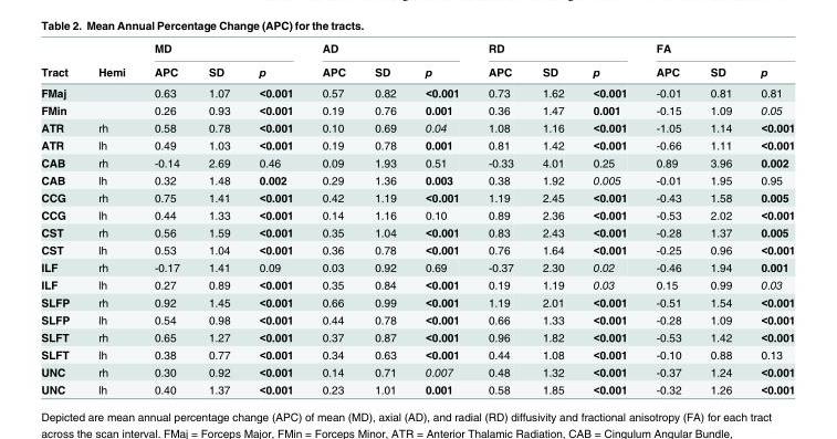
<table><thead><tr><td rowspan="2">Tract</td><td rowspan="2">Hemi</td><td colspan="3">MD</td><td colspan="3">AD</td><td colspan="3">RD</td><td colspan="3">FA</td></tr><tr><td>APC</td><td>SD</td><td>p</td><td>APC</td><td>SD</td><td>p</td><td>APC</td><td>SD</td><td>p</td><td>APC</td><td>SD</td><td>p</td></tr></thead><tbody><tr><td>FMaj</td><td></td><td>0.63</td><td>1.07</td><td>&lt;0.001</td><td>0.57</td><td>0.82</td><td>&lt;0.001</td><td>0.73</td><td>1.62</td><td>&lt;0.001</td><td>-0.01</td><td>0.81</td><td>0.81</td></tr><tr><td>FMin</td><td></td><td>0.26</td><td>0.93</td><td>&lt;0.001</td><td>0.19</td><td>0.76</td><td>0.001</td><td>0.36</td><td>1.47</td><td>0.001</td><td>-0.15</td><td>1.09</td><td>0.05</td></tr><tr><td>ATR</td><td>rh</td><td>0.58</td><td>0.78</td><td>&lt;0.001</td><td>0.10</td><td>0.69</td><td>0.04</td><td>1.08</td><td>1.16</td><td>&lt;0.001</td><td>-1.05</td><td>1.14</td><td>&lt;0.001</td></tr><tr><td>ATR</td><td>lh</td><td>0.49</td><td>1.03</td><td>&lt;0.001</td><td>0.19</td><td>0.78</td><td>0.001</td><td>0.81</td><td>1.42</td><td>&lt;0.001</td><td>-0.66</td><td>1.11</td><td>&lt;0.001</td></tr><tr><td>CAB</td><td>rh</td><td>-0.14</td><td>2.69</td><td>0.46</td><td>0.09</td><td>1.93</td><td>0.51</td><td>-0.33</td><td>4.01</td><td>0.25</td><td>0.89</td><td>3.96</td><td>0.002</td></tr><tr><td>CAB</td><td>lh</td><td>0.32</td><td>1.48</td><td>0.002</td><td>0.29</td><td>1.36</td><td>0.003</td><td>0.38</td><td>1.92</td><td>0.005</td><td>-0.01</td><td>1.95</td><td>0.95</td></tr><tr><td>CCG</td><td>rh</td><td>0.75</td><td>1.41</td><td>&lt;0.001</td><td>0.42</td><td>1.19</td><td>&lt;0.001</td><td>1.19</td><td>2.45</td><td>&lt;0.001</td><td>-0.43</td><td>1.58</td><td>0.005</td></tr><tr><td>CCG</td><td>lh</td><td>0.44</td><td>1.33</td><td>&lt;0.001</td><td>0.14</td><td>1.16</td><td>0.10</td><td>0.89</td><td>2.36</td><td>&lt;0.001</td><td>-0.53</td><td>2.02</td><td>&lt;0.001</td></tr><tr><td>CST</td><td>rh</td><td>0.56</td><td>1.59</td><td>&lt;0.001</td><td>0.35</td><td>1.04</td><td>&lt;0.001</td><td>0.83</td><td>2.43</td><td>&lt;0.001</td><td>-0.28</td><td>1.37</td><td>0.005</td></tr><tr><td>CST</td><td>lh</td><td>0.53</td><td>1.04</td><td>&lt;0.001</td><td>0.36</td><td>0.78</td><td>&lt;0.001</td><td>0.76</td><td>1.64</td><td>&lt;0.001</td><td>-0.25</td><td>0.96</td><td>&lt;0.001</td></tr><tr><td>ILF</td><td>rh</td><td>-0.17</td><td>1.41</td><td>0.09</td><td>0.03</td><td>0.92</td><td>0.69</td><td>-0.37</td><td>2.30</td><td>0.02</td><td>-0.46</td><td>1.94</td><td>0.001</td></tr><tr><td>ILF</td><td>lh</td><td>0.27</td><td>0.89</td><td>&lt;0.001</td><td>0.35</td><td>0.84</td><td>&lt;0.001</td><td>0.19</td><td>1.19</td><td>0.03</td><td>0.15</td><td>0.99</td><td>0.03</td></tr><tr><td>SLFP</td><td>rh</td><td>0.92</td><td>1.45</td><td>&lt;0.001</td><td>0.66</td><td>0.99</td><td>&lt;0.001</td><td>1.19</td><td>2.01</td><td>&lt;0.001</td><td>-0.51</td><td>1.54</td><td>&lt;0.001</td></tr><tr><td>SLFP</td><td>lh</td><td>0.54</td><td>0.98</td><td>&lt;0.001</td><td>0.44</td><td>0.78</td><td>&lt;0.001</td><td>0.66</td><td>1.33</td><td>&lt;0.001</td><td>-0.28</td><td>1.09</td><td>&lt;0.001</td></tr><tr><td>SLFT</td><td>rh</td><td>0.65</td><td>1.27</td><td>&lt;0.001</td><td>0.37</td><td>0.87</td><td>&lt;0.001</td><td>0.96</td><td>1.82</td><td>&lt;0.001</td><td>-0.53</td><td>1.42</td><td>&lt;0.001</td></tr><tr><td>SLFT</td><td>lh</td><td>0.38</td><td>0.77</td><td>&lt;0.001</td><td>0.34</td><td>0.63</td><td>&lt;0.001</td><td>0.44</td><td>1.08</td><td>&lt;0.001</td><td>-0.10</td><td>0.88</td><td>0.13</td></tr><tr><td>UNC</td><td>rh</td><td>0.30</td><td>0.92</td><td>&lt;0.001</td><td>0.14</td><td>0.71</td><td>0.007</td><td>0.48</td><td>1.32</td><td>&lt;0.001</td><td>-0.37</td><td>1.24</td><td>&lt;0.001</td></tr><tr><td>UNC</td><td>lh</td><td>0.40</td><td>1.37</td><td>&lt;0.001</td><td>0.23</td><td>1.01</td><td>0.001</td><td>0.58</td><td>1.85</td><td>&lt;0.001</td><td>-0.32</td><td>1.26</td><td>&lt;0.001</td></tr></tbody></table>